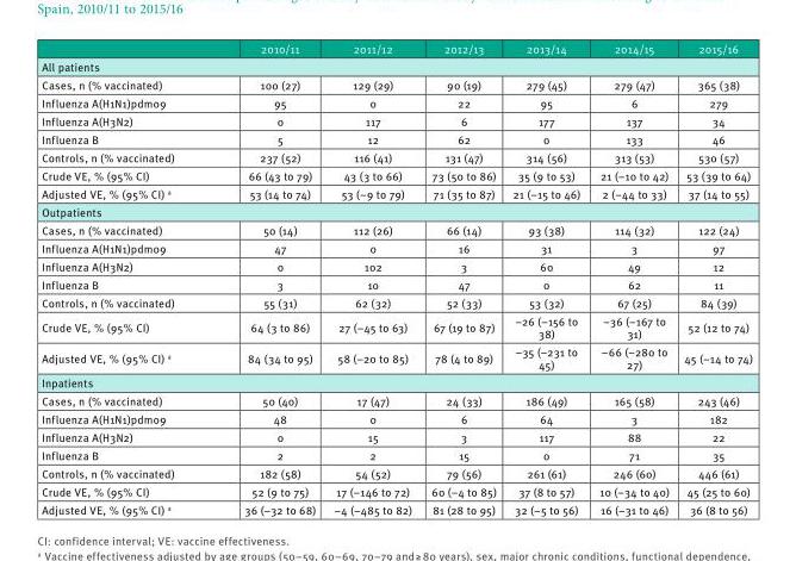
<table><thead><tr><td></td><td>2010/11</td><td>2011/12</td><td>2012/13</td><td>2013/14</td><td>2014/15</td><td>2015/16</td></tr></thead><tbody><tr><td colspan="7">All patients</td></tr><tr><td>Cases, n (% vaccinated)</td><td>100 (27)</td><td>129 (29)</td><td>90 (19)</td><td>279 (45)</td><td>279 (47)</td><td>365 (38)</td></tr><tr><td>Influenza A(H1N1)pdm09</td><td>95</td><td>0</td><td>22</td><td>95</td><td>6</td><td>279</td></tr><tr><td>Influenza A(H3N2)</td><td>0</td><td>117</td><td>6</td><td>177</td><td>137</td><td>34</td></tr><tr><td>Influenza B</td><td>5</td><td>12</td><td>62</td><td>0</td><td>133</td><td>46</td></tr><tr><td>Controls, n (% vaccinated)</td><td>237 (52)</td><td>116 (41)</td><td>131 (47)</td><td>314 (56)</td><td>313 (53)</td><td>530 (57)</td></tr><tr><td>Crude VE, % (95% CI)</td><td>66 (43 to 79)</td><td>43 (3 to 66)</td><td>73 (50 to 86)</td><td>35 (9 to 53)</td><td>21 (–10 to 42)</td><td>53 (39 to 64)</td></tr><tr><td>Adjusted VE, % (95% CI) <sup>a</sup></td><td>53 (14 to 74)</td><td>53 (–9 to 79)</td><td>71 (35 to 87)</td><td>21 (–15 to 46)</td><td>2 (–44 to 33)</td><td>37 (14 to 55)</td></tr><tr><td colspan="7">Outpatients</td></tr><tr><td>Cases, n (% vaccinated)</td><td>50 (14)</td><td>112 (26)</td><td>66 (14)</td><td>93 (38)</td><td>114 (32)</td><td>122 (24)</td></tr><tr><td>Influenza A(H1N1)pdm09</td><td>47</td><td>0</td><td>16</td><td>31</td><td>3</td><td>97</td></tr><tr><td>Influenza A(H3N2)</td><td>0</td><td>102</td><td>3</td><td>60</td><td>49</td><td>12</td></tr><tr><td>Influenza B</td><td>3</td><td>10</td><td>47</td><td>0</td><td>62</td><td>11</td></tr><tr><td>Controls, n (% vaccinated)</td><td>55 (31)</td><td>62 (32)</td><td>52 (33)</td><td>53 (32)</td><td>67 (25)</td><td>84 (39)</td></tr><tr><td>Crude VE, % (95% CI)</td><td>64 (3 to 86)</td><td>27 (–45 to 63)</td><td>67 (19 to 87)</td><td>–26 (–156 to 38)</td><td>–36 (–167 to 31)</td><td>52 (12 to 74)</td></tr><tr><td>Adjusted VE, % (95% CI) <sup>a</sup></td><td>84 (34 to 95)</td><td>58 (–20 to 85)</td><td>78 (4 to 89)</td><td>–35 (–231 to 45)</td><td>–66 (–280 to 27)</td><td>45 (–14 to 74)</td></tr><tr><td colspan="7">Inpatients</td></tr><tr><td>Cases, n (% vaccinated)</td><td>50 (40)</td><td>17 (47)</td><td>24 (33)</td><td>186 (49)</td><td>165 (58)</td><td>243 (46)</td></tr><tr><td>Influenza A(H1N1)pdm09</td><td>48</td><td>0</td><td>6</td><td>64</td><td>3</td><td>182</td></tr><tr><td>Influenza A(H3N2)</td><td>0</td><td>15</td><td>3</td><td>117</td><td>88</td><td>22</td></tr><tr><td>Influenza B</td><td>2</td><td>2</td><td>15</td><td>0</td><td>71</td><td>35</td></tr><tr><td>Controls, n (% vaccinated)</td><td>182 (58)</td><td>54 (52)</td><td>79 (56)</td><td>261 (61)</td><td>246 (60)</td><td>446 (61)</td></tr><tr><td>Crude VE, % (95% CI)</td><td>52 (9 to 75)</td><td>17 (–146 to 72)</td><td>60 (–4 to 85)</td><td>37 (8 to 57)</td><td>10 (–34 to 40)</td><td>45 (25 to 60)</td></tr><tr><td>Adjusted VE, % (95% CI) <sup>a</sup></td><td>36 (–32 to 68)</td><td>–4 (–485 to 82)</td><td>81 (28 to 95)</td><td>32 (–5 to 56)</td><td>16 (–31 to 46)</td><td>36 (8 to 56)</td></tr></tbody></table>